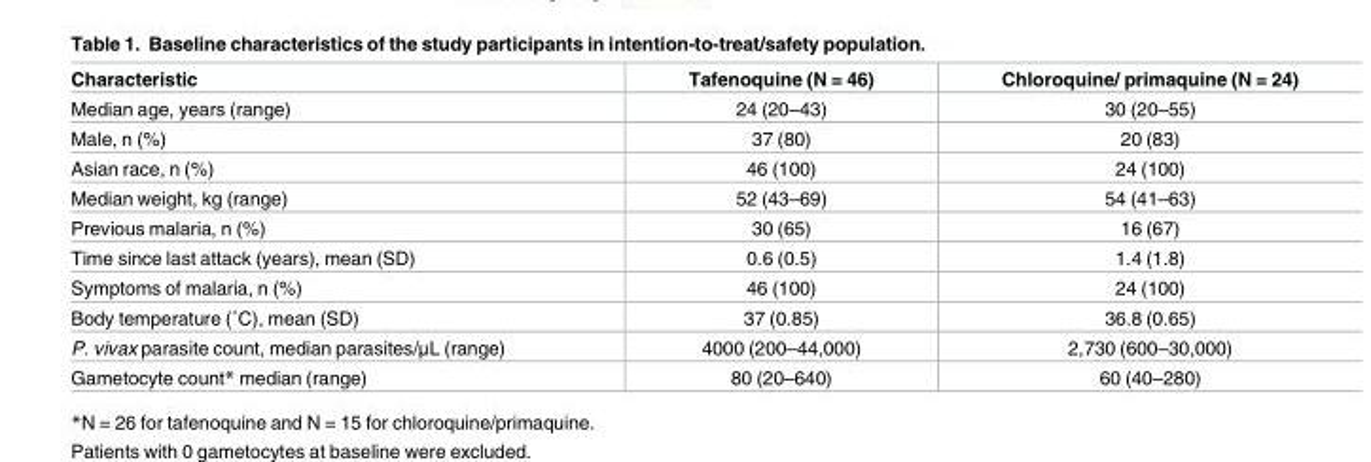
<table><thead><tr><td>Characteristic</td><td>Tafenoquine (N = 46)</td><td>Chloroquine/ primaquine (N = 24)</td></tr></thead><tbody><tr><td>Median age, years (range)</td><td>24 (20–43)</td><td>30 (20–55)</td></tr><tr><td>Male, n (%)</td><td>37 (80)</td><td>20 (83)</td></tr><tr><td>Asian race, n (%)</td><td>46 (100)</td><td>24 (100)</td></tr><tr><td>Median weight, kg (range)</td><td>52 (43–69)</td><td>54 (41–63)</td></tr><tr><td>Previous malaria, n (%)</td><td>30 (65)</td><td>16 (67)</td></tr><tr><td>Time since last attack (years), mean (SD)</td><td>0.6 (0.5)</td><td>1.4 (1.8)</td></tr><tr><td>Symptoms of malaria, n (%)</td><td>46 (100)</td><td>24 (100)</td></tr><tr><td>Body temperature (˚C), mean (SD)</td><td>37 (0.85)</td><td>36.8 (0.65)</td></tr><tr><td>P. vivax parasite count, median parasites/μL (range)</td><td>4000 (200–44,000)</td><td>2,730 (600–30,000)</td></tr><tr><td>Gametocyte count* median (range)</td><td>80 (20–640)</td><td>60 (40–280)</td></tr></tbody></table>